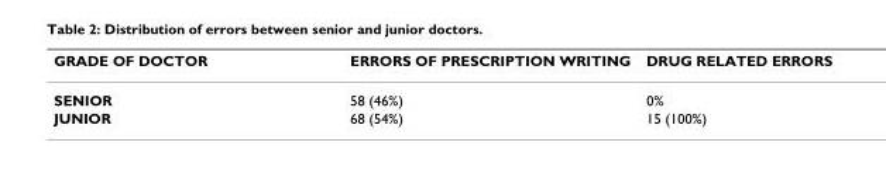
<table><thead><tr><td>GRADE OF DOCTOR</td><td>ERRORS OF PRESCRIPTION WRITING</td><td>DRUG RELATED ERRORS</td></tr></thead><tbody><tr><td>SENIOR</td><td>58 (46%)</td><td>0%</td></tr><tr><td>JUNIOR</td><td>68 (54%)</td><td>15 (100%)</td></tr></tbody></table>